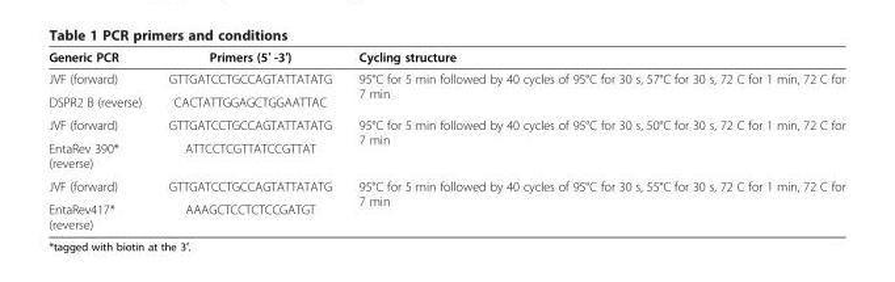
<table><thead><tr><td>Generic PCR</td><td>Primers (5′ -3′)</td><td>Cycling structure</td></tr></thead><tbody><tr><td>JVF (forward)</td><td>GTTGATCCTGCCAGTATTATATG</td><td rowspan="2">95°C for 5 min followed by 40 cycles of 95°C for 30 s, 57°C for 30 s, 72 C for 1 min, 72 C for 7 min</td></tr><tr><td>DSPR2 B (reverse)</td><td>CACTATTGGAGCTGGAATTAC</td></tr><tr><td>JVF (forward)</td><td>GTTGATCCTGCCAGTATTATATG</td><td rowspan="2">95°C for 5 min followed by 40 cycles of 95°C for 30 s, 50°C for 30 s, 72 C for 1 min, 72 C for 7 min</td></tr><tr><td>EntaRev 390* (reverse)</td><td>ATTCCTCGTTATCCGTTAT</td></tr><tr><td>JVF (forward)</td><td>GTTGATCCTGCCAGTATTATATG</td><td rowspan="2">95°C for 5 min followed by 40 cycles of 95°C for 30 s, 55°C for 30 s, 72 C for 1 min, 72 C for 7 min</td></tr><tr><td>EntaRev417* (reverse)</td><td>AAAGCTCCTCTCCGATGT</td></tr></tbody></table>